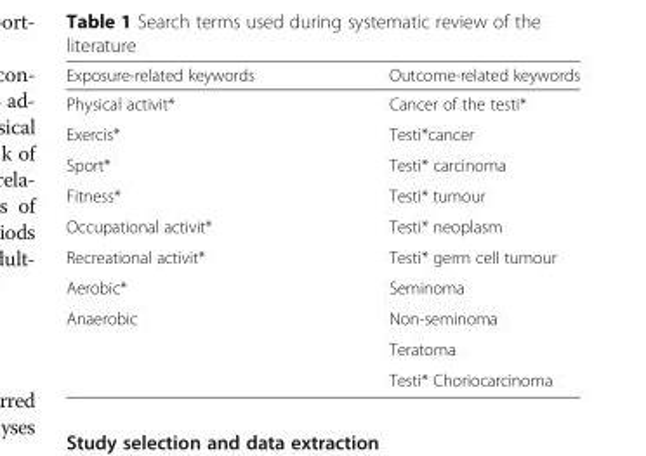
<table><thead><tr><td>Exposure-related keywords</td><td>Outcome-related keywords</td></tr></thead><tbody><tr><td>Physical activit*</td><td>Cancer of the testi*</td></tr><tr><td>Exercis*</td><td>Testi*cancer</td></tr><tr><td>Sport*</td><td>Testi* carcinoma</td></tr><tr><td>Fitness*</td><td>Testi* tumour</td></tr><tr><td>Occupational activit*</td><td>Testi* neoplasm</td></tr><tr><td>Recreational activit*</td><td>Testi* germ cell tumour</td></tr><tr><td>Aerobic*</td><td>Seminoma</td></tr><tr><td rowspan="3">Anaerobic</td><td>Non-seminoma</td></tr><tr><td>Teratoma</td></tr><tr><td>Testi* Choriocarcinoma</td></tr></tbody></table>